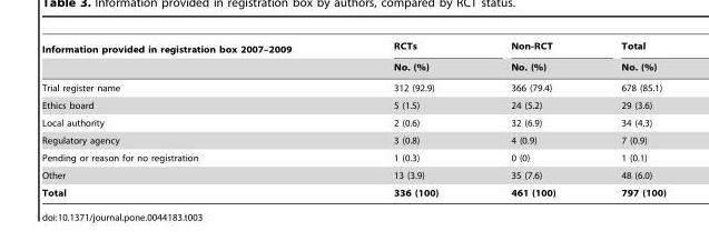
<table><thead><tr><td rowspan="2">Information provided in registration box 2007–2009</td><td rowspan="2">RCTs No. (%)</td><td rowspan="2">Non-RCT No. (%)</td><td rowspan="2">Total No. (%)</td></tr><tr></tr></thead><tbody><tr><td>Trial register name</td><td>312 (92.9)</td><td>366 (79.4)</td><td>678 (85.1)</td></tr><tr><td>Ethics board</td><td>5 (1.5)</td><td>24 (5.2)</td><td>29 (3.6)</td></tr><tr><td>Local authority</td><td>2 (0.6)</td><td>32 (6.9)</td><td>34 (4.3)</td></tr><tr><td>Regulatory agency</td><td>3 (0.8)</td><td>4 (0.9)</td><td>7 (0.9)</td></tr><tr><td>Pending or reason for no registration</td><td>1 (0.3)</td><td>0 (0)</td><td>1 (0.1)</td></tr><tr><td>Other</td><td>13 (3.9)</td><td>35 (7.6)</td><td>48 (6.0)</td></tr><tr><td>Total</td><td>336 (100)</td><td>461 (100)</td><td>797 (100)</td></tr></tbody></table>